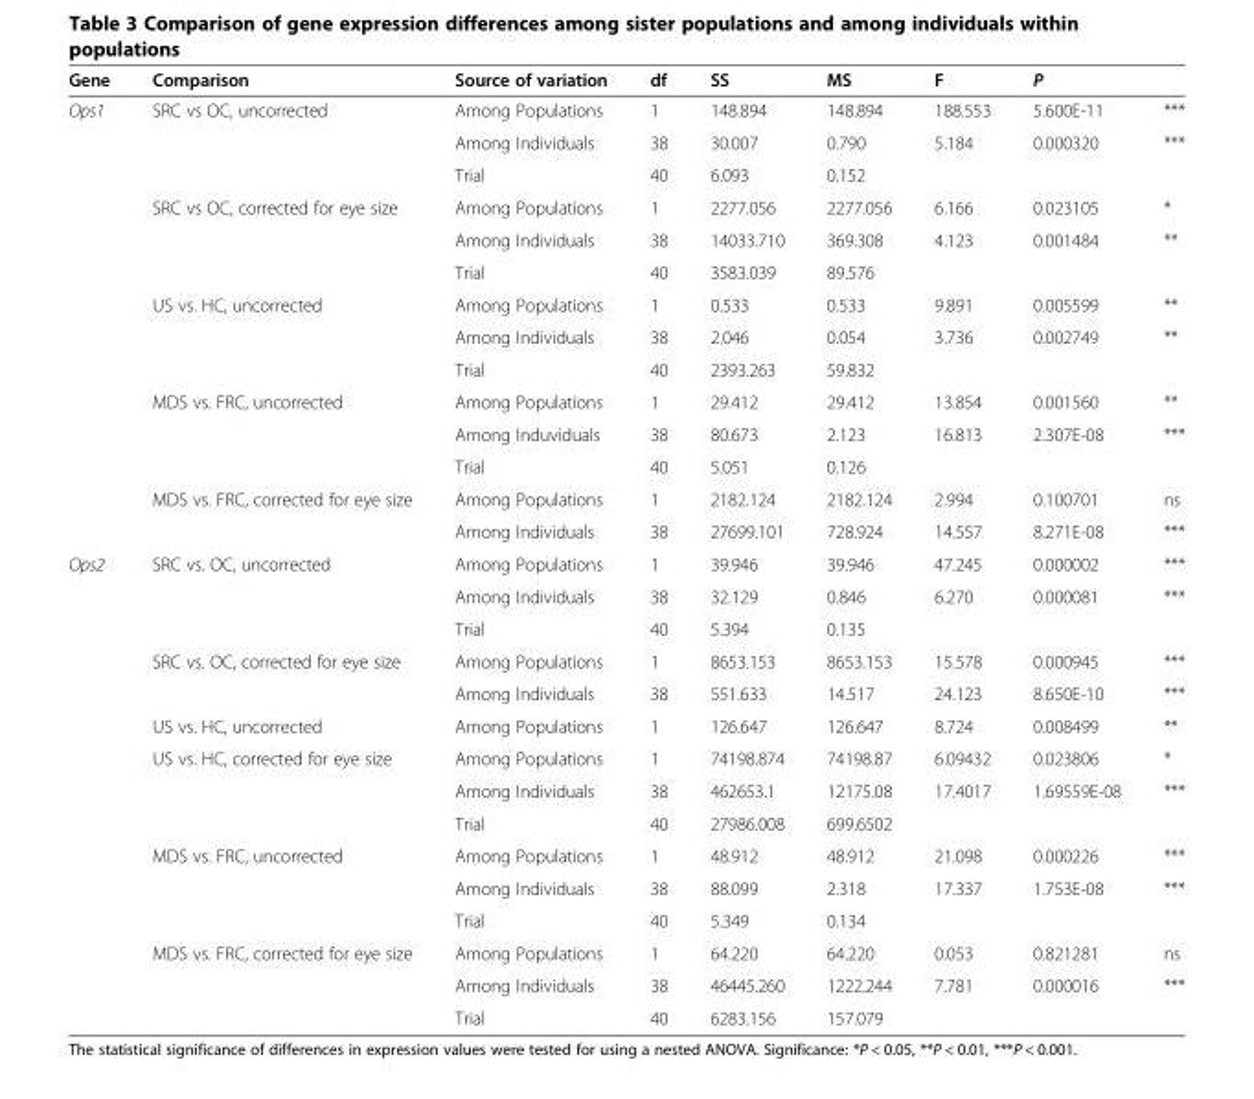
<table><thead><tr><td rowspan="2">Gene Ops1</td><td rowspan="2">Comparison SRC vs OC, uncorrected</td><td rowspan="2">Source of variation Among Populations</td><td rowspan="2">df 1</td><td rowspan="2">SS 148.894</td><td rowspan="2">MS 148.894</td><td rowspan="2">F 188.553</td><td colspan="2">P</td></tr><tr><td>5.600E-11</td><td>***</td></tr></thead><tbody><tr><td></td><td></td><td>Among Individuals</td><td>38</td><td>30.007</td><td>0.790</td><td>5.184</td><td>0.000320</td><td>***</td></tr><tr><td></td><td></td><td>Trial</td><td>40</td><td>6.093</td><td>0.152</td><td></td><td></td><td></td></tr><tr><td></td><td>SRC vs OC, corrected for eye size</td><td>Among Populations</td><td>1</td><td>2277.056</td><td>2277.056</td><td>6.166</td><td>0.023105</td><td>*</td></tr><tr><td></td><td></td><td>Among Individuals</td><td>38</td><td>14033.710</td><td>369.308</td><td>4.123</td><td>0.001484</td><td>**</td></tr><tr><td></td><td></td><td>Trial</td><td>40</td><td>3583.039</td><td>89.576</td><td></td><td></td><td></td></tr><tr><td></td><td>US vs. HC, uncorrected</td><td>Among Populations</td><td>1</td><td>0.533</td><td>0.533</td><td>9.891</td><td>0.005599</td><td>**</td></tr><tr><td></td><td></td><td>Among Individuals</td><td>38</td><td>2.046</td><td>0.054</td><td>3.736</td><td>0.002749</td><td>**</td></tr><tr><td></td><td></td><td>Trial</td><td>40</td><td>2393.263</td><td>59.832</td><td></td><td></td><td></td></tr><tr><td></td><td>MDS vs. FRC, uncorrected</td><td>Among Populations</td><td>1</td><td>29.412</td><td>29.412</td><td>13.854</td><td>0.001560</td><td>**</td></tr><tr><td></td><td></td><td>Among Induviduals</td><td>38</td><td>80.673</td><td>2.123</td><td>16.813</td><td>2.307E-08</td><td>***</td></tr><tr><td></td><td></td><td>Trial</td><td>40</td><td>5.051</td><td>0.126</td><td></td><td></td><td></td></tr><tr><td></td><td>MDS vs. FRC, corrected for eye size</td><td>Among Populations</td><td>1</td><td>2182.124</td><td>2182.124</td><td>2.994</td><td>0.100701</td><td>ns</td></tr><tr><td></td><td></td><td>Among Individuals</td><td>38</td><td>27699.101</td><td>728.924</td><td>14.557</td><td>8.271E-08</td><td>***</td></tr><tr><td rowspan="15">Ops2</td><td>SRC vs. OC, uncorrected</td><td>Among Populations</td><td>1</td><td>39.946</td><td>39.946</td><td>47.245</td><td>0.000002</td><td>***</td></tr><tr><td></td><td>Among Individuals</td><td>38</td><td>32.129</td><td>0.846</td><td>6.270</td><td>0.000081</td><td>***</td></tr><tr><td></td><td>Trial</td><td>40</td><td>5.394</td><td>0.135</td><td></td><td></td><td></td></tr><tr><td>SRC vs. OC, corrected for eye size</td><td>Among Populations</td><td>1</td><td>8653.153</td><td>8653.153</td><td>15.578</td><td>0.000945</td><td>***</td></tr><tr><td></td><td>Among Individuals</td><td>38</td><td>551.633</td><td>14.517</td><td>24.123</td><td>8.650E-10</td><td>***</td></tr><tr><td>US vs. HC, uncorrected</td><td>Among Populations</td><td>1</td><td>126.647</td><td>126.647</td><td>8.724</td><td>0.008499</td><td>**</td></tr><tr><td>US vs. HC, corrected for eye size</td><td>Among Populations</td><td>1</td><td>74198.874</td><td>74198.87</td><td>6.09432</td><td>0.023806</td><td>*</td></tr><tr><td></td><td>Among Individuals</td><td>38</td><td>462653.1</td><td>12175.08</td><td>17.4017</td><td>1.69559E-08</td><td>***</td></tr><tr><td></td><td>Trial</td><td>40</td><td>27986.008</td><td>699.6502</td><td></td><td></td><td></td></tr><tr><td>MDS vs. FRC, uncorrected</td><td>Among Populations</td><td>1</td><td>48.912</td><td>48.912</td><td>21.098</td><td>0.000226</td><td>***</td></tr><tr><td></td><td>Among Individuals</td><td>38</td><td>88.099</td><td>2.318</td><td>17.337</td><td>1.753E-08</td><td>***</td></tr><tr><td></td><td>Trial</td><td>40</td><td>5.349</td><td>0.134</td><td></td><td></td><td></td></tr><tr><td>MDS vs. FRC, corrected for eye size</td><td>Among Populations</td><td>1</td><td>64.220</td><td>64.220</td><td>0.053</td><td>0.821281</td><td>ns</td></tr><tr><td></td><td>Among Individuals</td><td>38</td><td>46445.260</td><td>1222.244</td><td>7.781</td><td>0.000016</td><td>***</td></tr><tr><td></td><td>Trial</td><td>40</td><td>6283.156</td><td>157.079</td><td></td><td></td><td></td></tr></tbody></table>